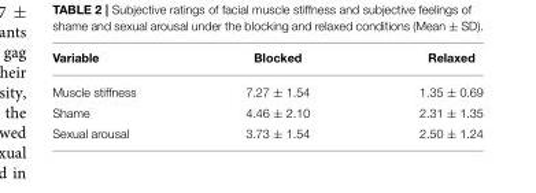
<table><thead><tr><td>Variable</td><td>Blocked</td><td>Relaxed</td></tr></thead><tbody><tr><td>Muscle stiffness</td><td>7.27 ± 1.54</td><td>1.35 ± 0.69</td></tr><tr><td>Shame</td><td>4.46 ± 2.10</td><td>2.31 ± 1.35</td></tr><tr><td>Sexual arousal</td><td>3.73 ± 1.54</td><td>2.50 ± 1.24</td></tr></tbody></table>